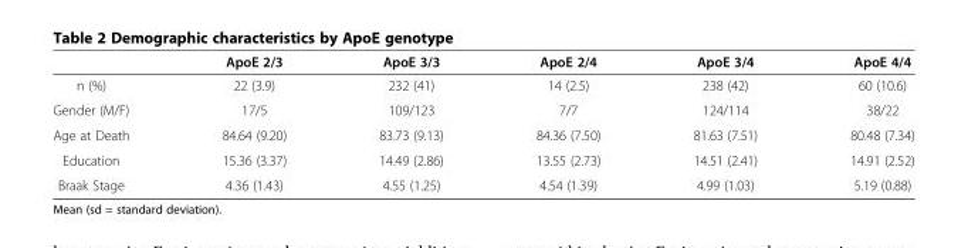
<table><thead><tr><td></td><td>ApoE 2/3</td><td>ApoE 3/3</td><td>ApoE 2/4</td><td>ApoE 3/4</td><td>ApoE 4/4</td></tr></thead><tbody><tr><td>n (%)</td><td>22 (3.9)</td><td>232 (41)</td><td>14 (2.5)</td><td>238 (42)</td><td>60 (10.6)</td></tr><tr><td>Gender (M/F)</td><td>17/5</td><td>109/123</td><td>7/7</td><td>124/114</td><td>38/22</td></tr><tr><td>Age at Death</td><td>84.64 (9.20)</td><td>83.73 (9.13)</td><td>84.36 (7.50)</td><td>81.63 (7.51)</td><td>80.48 (7.34)</td></tr><tr><td>Education</td><td>15.36 (3.37)</td><td>14.49 (2.86)</td><td>13.55 (2.73)</td><td>14.51 (2.41)</td><td>14.91 (2.52)</td></tr><tr><td>Braak Stage</td><td>4.36 (1.43)</td><td>4.55 (1.25)</td><td>4.54 (1.39)</td><td>4.99 (1.03)</td><td>5.19 (0.88)</td></tr></tbody></table>